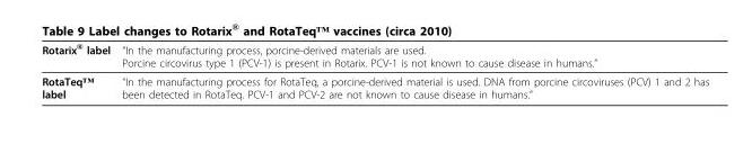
<table><thead><tr><td>Rotarix<sup>®</sup> label</td><td>“In the manufacturing process, porcine-derived materials are used. Porcine circovirus type 1 (PCV-1) is present in Rotarix. PCV-1 is not known to cause disease in humans.”</td></tr></thead><tbody><tr><td>RotaTeq™ label</td><td>“In the manufacturing process for RotaTeq, a porcine-derived material is used. DNA from porcine circoviruses (PCV) 1 and 2 has been detected in RotaTeq. PCV-1 and PCV-2 are not known to cause disease in humans.”</td></tr></tbody></table>